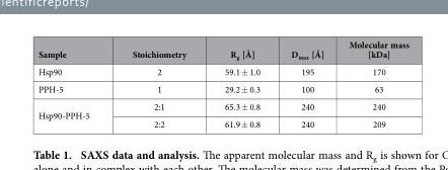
<table><thead><tr><td>Sample</td><td>Stoichiometry</td><td>R<sub>g</sub> [Å]</td><td>D<sub>max</sub> [Å]</td><td>Molecular mass [kDa]</td></tr></thead><tbody><tr><td>Hsp90</td><td>2</td><td>59.1 ± 1.0</td><td>195</td><td>170</td></tr><tr><td>PPH-5</td><td>1</td><td>29.2 ± 0.3</td><td>100</td><td>63</td></tr><tr><td rowspan="2">Hsp90-PPH-5</td><td>2:1</td><td>65.3 ± 0.8</td><td>240</td><td>240</td></tr><tr><td>2:2</td><td>61.9 ± 0.8</td><td>240</td><td>209</td></tr></tbody></table>